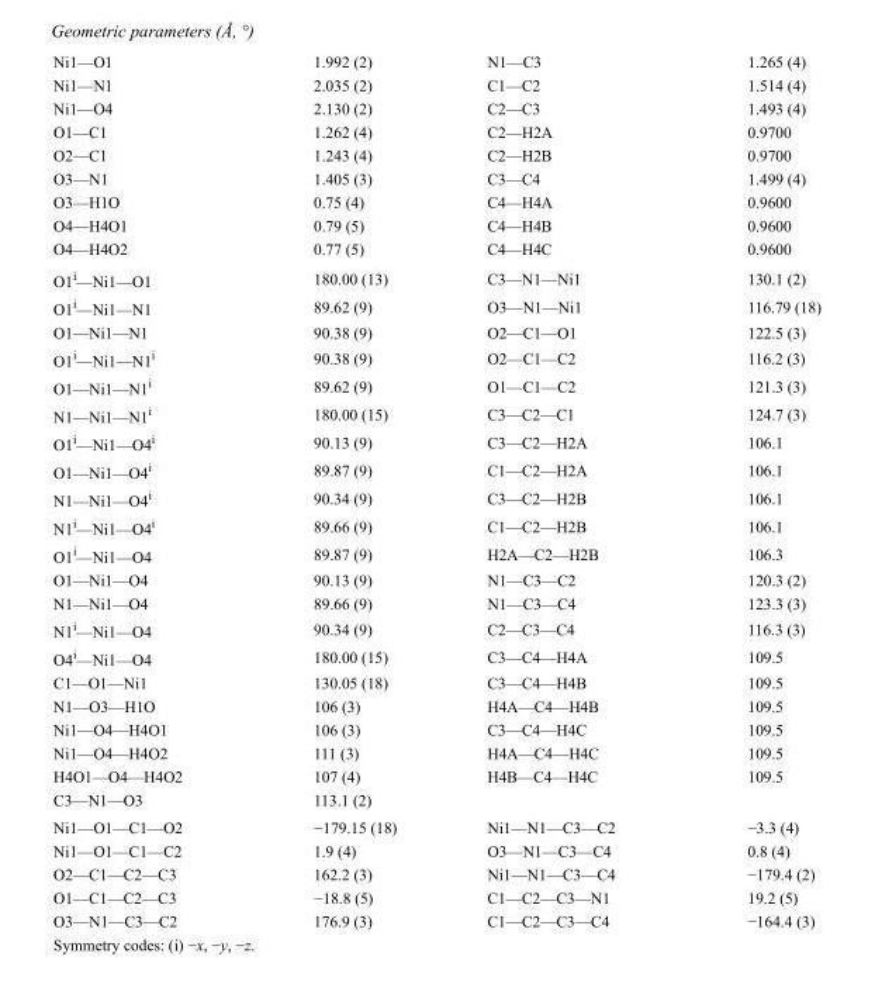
<table><tbody><tr><td>Ni1—O1</td><td>1.992 (2)</td><td>N1—C3</td><td>1.265 (4)</td></tr><tr><td>Ni1—N1</td><td>2.035 (2)</td><td>C1—C2</td><td>1.514 (4)</td></tr><tr><td>Ni1—O4</td><td>2.130 (2)</td><td>C2—C3</td><td>1.493 (4)</td></tr><tr><td>O1—C1</td><td>1.262 (4)</td><td>C2—H2A</td><td>0.9700</td></tr><tr><td>O2—C1</td><td>1.243 (4)</td><td>C2—H2B</td><td>0.9700</td></tr><tr><td>O3—N1</td><td>1.405 (3)</td><td>C3—C4</td><td>1.499 (4)</td></tr><tr><td>O3—H1O</td><td>0.75 (4)</td><td>C4—H4A</td><td>0.9600</td></tr><tr><td>O4—H4O1</td><td>0.79 (5)</td><td>C4—H4B</td><td>0.9600</td></tr><tr><td>O4—H4O2</td><td>0.77 (5)</td><td>C4—H4C</td><td>0.9600</td></tr><tr><td>O1<sup>i</sup>—Ni1—O1</td><td>180.00 (13)</td><td>C3—N1—Ni1</td><td>130.1 (2)</td></tr><tr><td>O1<sup>i</sup>—Ni1—N1</td><td>89.62 (9)</td><td>O3—N1—Ni1</td><td>116.79 (18)</td></tr><tr><td>O1—Ni1—N1</td><td>90.38 (9)</td><td>O2—C1—O1</td><td>122.5 (3)</td></tr><tr><td>O1<sup>i</sup>—Ni1—N1<sup>i</sup></td><td>90.38 (9)</td><td>O2—C1—C2</td><td>116.2 (3)</td></tr><tr><td>O1—Ni1—N1<sup>i</sup></td><td>89.62 (9)</td><td>O1—C1—C2</td><td>121.3 (3)</td></tr><tr><td>N1—Ni1—N1<sup>i</sup></td><td>180.00 (15)</td><td>C3—C2—C1</td><td>124.7 (3)</td></tr><tr><td>O1<sup>i</sup>—Ni1—O4<sup>i</sup></td><td>90.13 (9)</td><td>C3—C2—H2A</td><td>106.1</td></tr><tr><td>O1—Ni1—O4<sup>i</sup></td><td>89.87 (9)</td><td>C1—C2—H2A</td><td>106.1</td></tr><tr><td>N1—Ni1—O4<sup>i</sup></td><td>90.34 (9)</td><td>C3—C2—H2B</td><td>106.1</td></tr><tr><td>N1<sup>i</sup>—Ni1—O4<sup>i</sup></td><td>89.66 (9)</td><td>C1—C2—H2B</td><td>106.1</td></tr><tr><td>O1<sup>i</sup>—Ni1—O4</td><td>89.87 (9)</td><td>H2A—C2—H2B</td><td>106.3</td></tr><tr><td>O1—Ni1—O4</td><td>90.13 (9)</td><td>N1—C3—C2</td><td>120.3 (2)</td></tr><tr><td>N1—Ni1—O4</td><td>89.66 (9)</td><td>N1—C3—C4</td><td>123.3 (3)</td></tr><tr><td>N1<sup>i</sup>—Ni1—O4</td><td>90.34 (9)</td><td>C2—C3—C4</td><td>116.3 (3)</td></tr><tr><td>O4<sup>i</sup>—Ni1—O4</td><td>180.00 (15)</td><td>C3—C4—H4A</td><td>109.5</td></tr><tr><td>C1—O1—Ni1</td><td>130.05 (18)</td><td>C3—C4—H4B</td><td>109.5</td></tr><tr><td>N1—O3—H1O</td><td>106 (3)</td><td>H4A—C4—H4B</td><td>109.5</td></tr><tr><td>Ni1—O4—H4O1</td><td>106 (3)</td><td>C3—C4—H4C</td><td>109.5</td></tr><tr><td>Ni1—O4—H4O2</td><td>111 (3)</td><td>H4A—C4—H4C</td><td>109.5</td></tr><tr><td>H4O1—O4—H4O2</td><td>107 (4)</td><td>H4B—C4—H4C</td><td>109.5</td></tr><tr><td>C3—N1—O3</td><td>113.1 (2)</td><td></td><td></td></tr><tr><td>Ni1—O1—C1—O2</td><td>−179.15 (18)</td><td>Ni1—N1—C3—C2</td><td>−3.3 (4)</td></tr><tr><td>Ni1—O1—C1—C2</td><td>1.9 (4)</td><td>O3—N1—C3—C4</td><td>0.8 (4)</td></tr><tr><td>O2—C1—C2—C3</td><td>162.2 (3)</td><td>Ni1—N1—C3—C4</td><td>−179.4 (2)</td></tr><tr><td>O1—C1—C2—C3</td><td>−18.8 (5)</td><td>C1—C2—C3—N1</td><td>19.2 (5)</td></tr><tr><td>O3—N1—C3—C2</td><td>176.9 (3)</td><td>C1—C2—C3—C4</td><td>−164.4 (3)</td></tr></tbody></table>